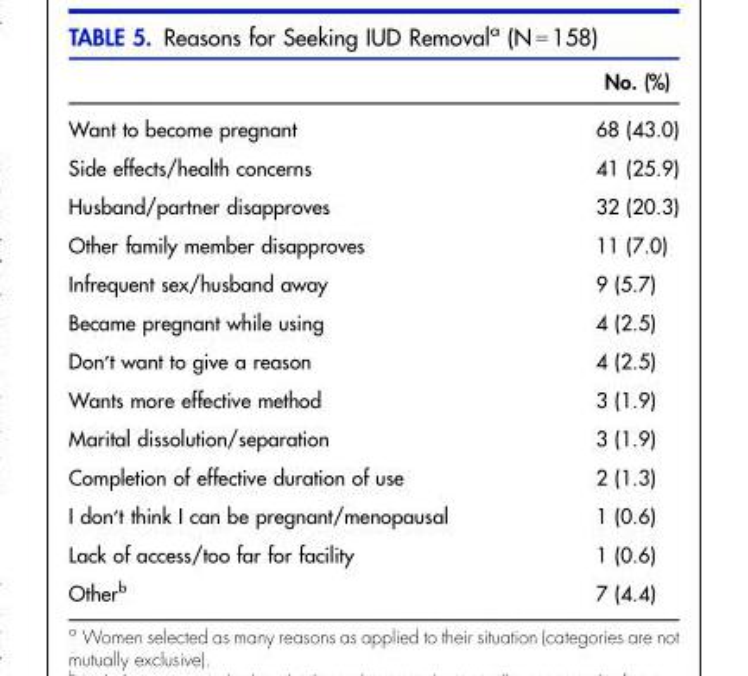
<table><thead><tr><td></td><td>No. (%)</td></tr></thead><tbody><tr><td>Want to become pregnant</td><td>68 (43.0)</td></tr><tr><td>Side effects/health concerns</td><td>41 (25.9)</td></tr><tr><td>Husband/partner disapproves</td><td>32 (20.3)</td></tr><tr><td>Other family member disapproves</td><td>11 (7.0)</td></tr><tr><td>Infrequent sex/husband away</td><td>9 (5.7)</td></tr><tr><td>Became pregnant while using</td><td>4 (2.5)</td></tr><tr><td>Don’t want to give a reason</td><td>4 (2.5)</td></tr><tr><td>Wants more effective method</td><td>3 (1.9)</td></tr><tr><td>Marital dissolution/separation</td><td>3 (1.9)</td></tr><tr><td>Completion of effective duration of use</td><td>2 (1.3)</td></tr><tr><td>I don’t think I can be pregnant/menopausal</td><td>1 (0.6)</td></tr><tr><td>Lack of access/too far for facility</td><td>1 (0.6)</td></tr><tr><td>Other<sup>b</sup></td><td>7 (4.4)</td></tr></tbody></table>